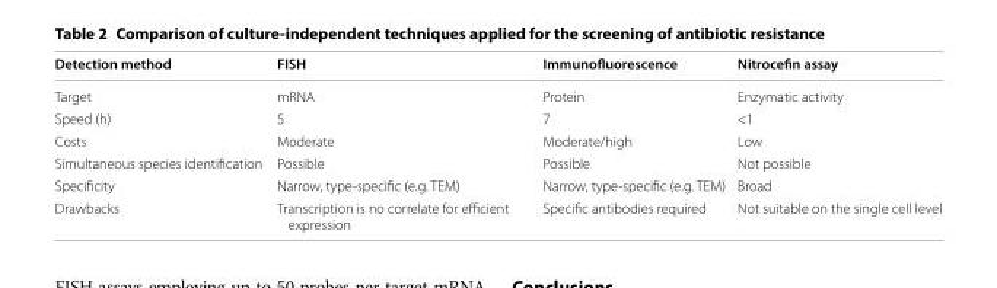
<table><thead><tr><td>Detection method</td><td>FISH</td><td>Immunofluorescence</td><td>Nitrocefin assay</td></tr></thead><tbody><tr><td>Target</td><td>mRNA</td><td>Protein</td><td>Enzymatic activity</td></tr><tr><td>Speed (h)</td><td>5</td><td>7</td><td>&lt;1</td></tr><tr><td>Costs</td><td>Moderate</td><td>Moderate/high</td><td>Low</td></tr><tr><td>Simultaneous species identification</td><td>Possible</td><td>Possible</td><td>Not possible</td></tr><tr><td>Specificity</td><td>Narrow, type-specific (e.g. TEM)</td><td>Narrow, type-specific (e.g. TEM)</td><td>Broad</td></tr><tr><td>Drawbacks</td><td>Transcription is no correlate for efficient expression</td><td>Specific antibodies required</td><td>Not suitable on the single cell level</td></tr></tbody></table>